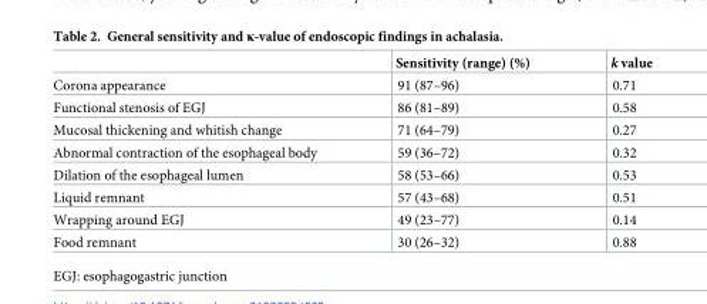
<table><thead><tr><td></td><td>Sensitivity (range) (%)</td><td>k value</td></tr></thead><tbody><tr><td>Corona appearance</td><td>91 (87–96)</td><td>0.71</td></tr><tr><td>Functional stenosis of EGJ</td><td>86 (81–89)</td><td>0.58</td></tr><tr><td>Mucosal thickening and whitish change</td><td>71 (64–79)</td><td>0.27</td></tr><tr><td>Abnormal contraction of the esophageal body</td><td>59 (36–72)</td><td>0.32</td></tr><tr><td>Dilation of the esophageal lumen</td><td>58 (53–66)</td><td>0.53</td></tr><tr><td>Liquid remnant</td><td>57 (43–68)</td><td>0.51</td></tr><tr><td>Wrapping around EGJ</td><td>49 (23–77)</td><td>0.14</td></tr><tr><td>Food remnant</td><td>30 (26–32)</td><td>0.88</td></tr></tbody></table>